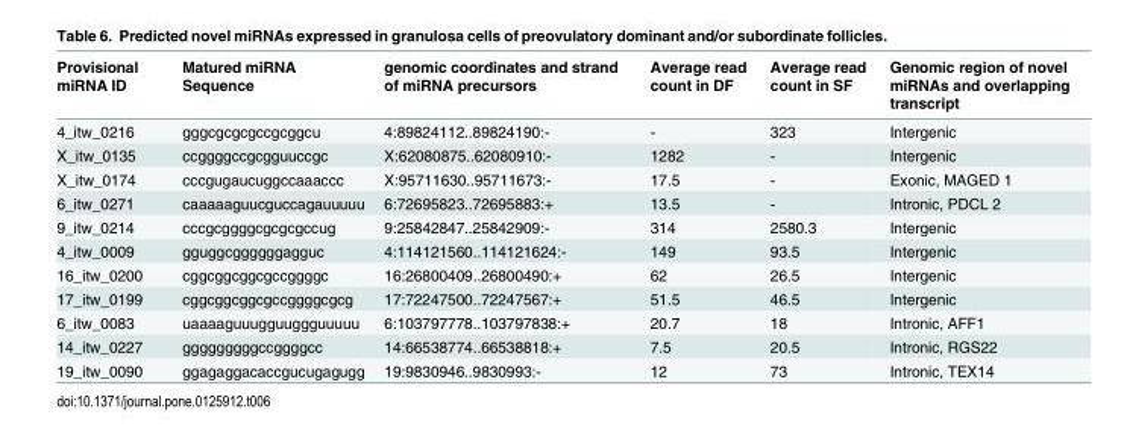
<table><thead><tr><td>Provisional miRNA ID</td><td>Matured miRNA Sequence</td><td>genomic coordinates and strand of miRNA precursors</td><td>Average read count in DF</td><td>Average read count in SF</td><td>Genomic region of novel miRNAs and overlapping transcript</td></tr></thead><tbody><tr><td>4_itw_0216</td><td>gggcgcgcgccgcggcu</td><td>4:89824112..89824190:-</td><td>-</td><td>323</td><td>Intergenic</td></tr><tr><td>X_itw_0135</td><td>ccggggccgcgguuccgc</td><td>X:62080875..62080910:-</td><td>1282</td><td>-</td><td>Intergenic</td></tr><tr><td>X_itw_0174</td><td>cccgugaucuggccaaaccc</td><td>X:95711630..95711673:-</td><td>17.5</td><td>-</td><td>Exonic, MAGED 1</td></tr><tr><td>6_itw_0271</td><td>caaaaaguucguccagauuuuu</td><td>6:72695823..72695883:+</td><td>13.5</td><td>-</td><td>Intronic, PDCL 2</td></tr><tr><td>9_itw_0214</td><td>cccgcggggcgcgcgccug</td><td>9:25842847..25842909:-</td><td>314</td><td>2580.3</td><td>Intergenic</td></tr><tr><td>4_itw_0009</td><td>gguggcggggggagguc</td><td>4:114121560..114121624:-</td><td>149</td><td>93.5</td><td>Intergenic</td></tr><tr><td>16_itw_0200</td><td>cggcggcggcgccggggc</td><td>16:26800409..26800490:+</td><td>62</td><td>26.5</td><td>Intergenic</td></tr><tr><td>17_itw_0199</td><td>cggcggcggcgccggggcgcg</td><td>17:72247500..72247567:+</td><td>51.5</td><td>46.5</td><td>Intergenic</td></tr><tr><td>6_itw_0083</td><td>uaaaaguuugguuggguuuuu</td><td>6:103797778..103797838:+</td><td>20.7</td><td>18</td><td>Intronic, AFF1</td></tr><tr><td>14_itw_0227</td><td>gggggggggccggggcc</td><td>14:66538774..66538818:+</td><td>7.5</td><td>20.5</td><td>Intronic, RGS22</td></tr><tr><td>19_itw_0090</td><td>ggagaggacaccgucugagugg</td><td>19:9830946..9830993:-</td><td>12</td><td>73</td><td>Intronic, TEX14</td></tr></tbody></table>